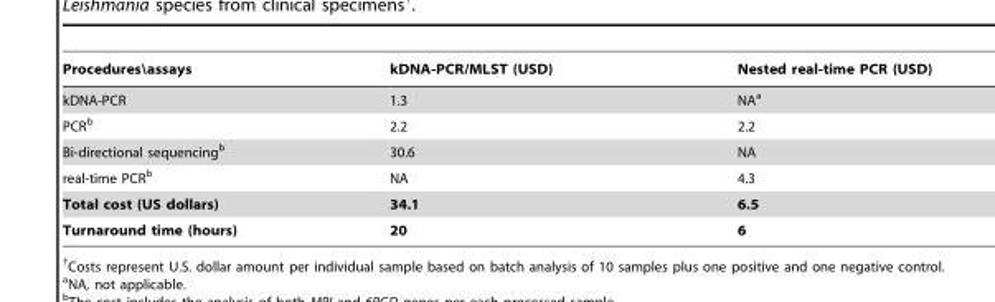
<table><thead><tr><td>Procedures\assays</td><td>kDNA-PCR/MLST (USD)</td><td>Nested real-time PCR (USD)</td></tr></thead><tbody><tr><td>kDNA-PCR</td><td>1.3</td><td>NA<sup>a</sup></td></tr><tr><td>PCR<sup>b</sup></td><td>2.2</td><td>2.2</td></tr><tr><td>Bi-directional sequencing<sup>b</sup></td><td>30.6</td><td>NA</td></tr><tr><td>real-time PCR<sup>b</sup></td><td>NA</td><td>4.3</td></tr><tr><td>Total cost (US dollars)</td><td>34.1</td><td>6.5</td></tr><tr><td>Turnaround time (hours)</td><td>20</td><td>6</td></tr></tbody></table>